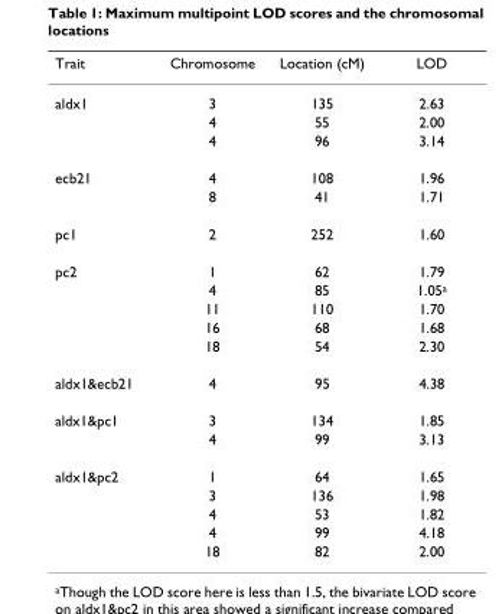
<table><thead><tr><td>Trait</td><td>Chromosome</td><td>Location (cM)</td><td>LOD</td></tr></thead><tbody><tr><td rowspan="3">aldx1</td><td>3</td><td>135</td><td>2.63</td></tr><tr><td>4</td><td>55</td><td>2.00</td></tr><tr><td>4</td><td>96</td><td>3.14</td></tr><tr><td rowspan="2">ecb21</td><td>4</td><td>108</td><td>1.96</td></tr><tr><td>8</td><td>41</td><td>1.71</td></tr><tr><td>pc1</td><td>2</td><td>252</td><td>1.60</td></tr><tr><td rowspan="5">pc2</td><td>1</td><td>62</td><td>1.79</td></tr><tr><td>4</td><td>85</td><td>1.05a</td></tr><tr><td>11</td><td>110</td><td>1.70</td></tr><tr><td>16</td><td>68</td><td>1.68</td></tr><tr><td>18</td><td>54</td><td>2.30</td></tr><tr><td>aldx1&amp;ecb21</td><td>4</td><td>95</td><td>4.38</td></tr><tr><td rowspan="2">aldx1&amp;pc1</td><td>3</td><td>134</td><td>1.85</td></tr><tr><td>4</td><td>99</td><td>3.13</td></tr><tr><td rowspan="5">aldx1&amp;pc2</td><td>1</td><td>64</td><td>1.65</td></tr><tr><td>3</td><td>136</td><td>1.98</td></tr><tr><td>4</td><td>53</td><td>1.82</td></tr><tr><td>4</td><td>99</td><td>4.18</td></tr><tr><td>18</td><td>82</td><td>2.00</td></tr></tbody></table>